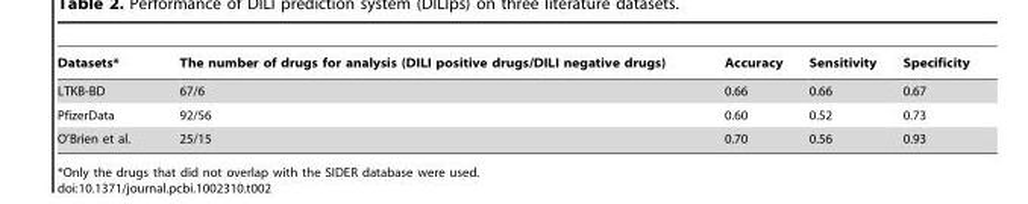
<table><thead><tr><td>Datasets*</td><td>The number of drugs for analysis (DILI positive drugs/DILI negative drugs)</td><td>Accuracy</td><td>Sensitivity</td><td>Specificity</td></tr></thead><tbody><tr><td>LTKB-BD</td><td>67/6</td><td>0.66</td><td>0.66</td><td>0.67</td></tr><tr><td>PfizerData</td><td>92/56</td><td>0.60</td><td>0.52</td><td>0.73</td></tr><tr><td>O’Brien et al.</td><td>25/15</td><td>0.70</td><td>0.56</td><td>0.93</td></tr></tbody></table>